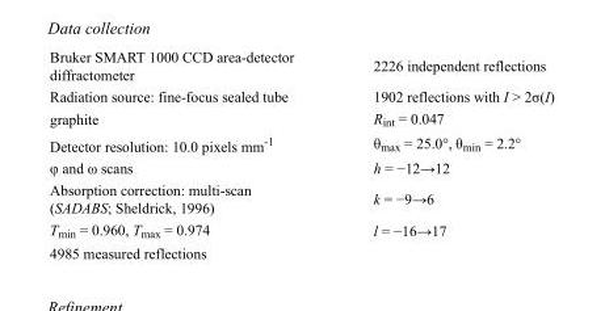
<table><tbody><tr><td>Bruker SMART 1000 CCD area-detector diffractometer</td><td>2226 independent reflections</td></tr><tr><td>Radiation source: fine-focus sealed tube</td><td>1902 reflections with I &gt; 2σ(I)</td></tr><tr><td>graphite</td><td>R<sub>int</sub> = 0.047</td></tr><tr><td>Detector resolution: 10.0 pixels mm<sup>-1</sup></td><td>θ<sub>max</sub> = 25.0°, θ<sub>min</sub> = 2.2°</td></tr><tr><td>φ and ω scans</td><td>h = −12→12</td></tr><tr><td>Absorption correction: multi-scan (SADABS; Sheldrick, 1996)</td><td>k = −9→6</td></tr><tr><td>T<sub>min</sub> = 0.960, T<sub>max</sub> = 0.974</td><td>l = −16→17</td></tr><tr><td>4985 measured reflections</td><td></td></tr></tbody></table>